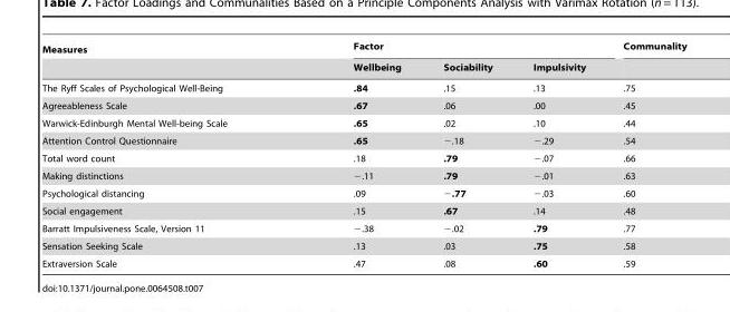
<table><thead><tr><td rowspan="2">Measures</td><td colspan="3">Factor</td><td rowspan="2">Communality</td></tr><tr><td>Wellbeing</td><td>Sociability</td><td>Impulsivity</td></tr></thead><tbody><tr><td>The Ryff Scales of Psychological Well-Being</td><td>.84</td><td>.15</td><td>.13</td><td>.75</td></tr><tr><td>Agreeableness Scale</td><td>.67</td><td>.06</td><td>.00</td><td>.45</td></tr><tr><td>Warwick-Edinburgh Mental Well-being Scale</td><td>.65</td><td>.02</td><td>.10</td><td>.44</td></tr><tr><td>Attention Control Questionnaire</td><td>.65</td><td>−.18</td><td>−.29</td><td>.54</td></tr><tr><td>Total word count</td><td>.18</td><td>.79</td><td>−.07</td><td>.66</td></tr><tr><td>Making distinctions</td><td>−.11</td><td>.79</td><td>−.01</td><td>.63</td></tr><tr><td>Psychological distancing</td><td>.09</td><td>−.77</td><td>−.03</td><td>.60</td></tr><tr><td>Social engagement</td><td>.15</td><td>.67</td><td>.14</td><td>.48</td></tr><tr><td>Barratt Impulsiveness Scale, Version 11</td><td>−.38</td><td>−.02</td><td>.79</td><td>.77</td></tr><tr><td>Sensation Seeking Scale</td><td>.13</td><td>.03</td><td>.75</td><td>.58</td></tr><tr><td>Extraversion Scale</td><td>.47</td><td>.08</td><td>.60</td><td>.59</td></tr></tbody></table>